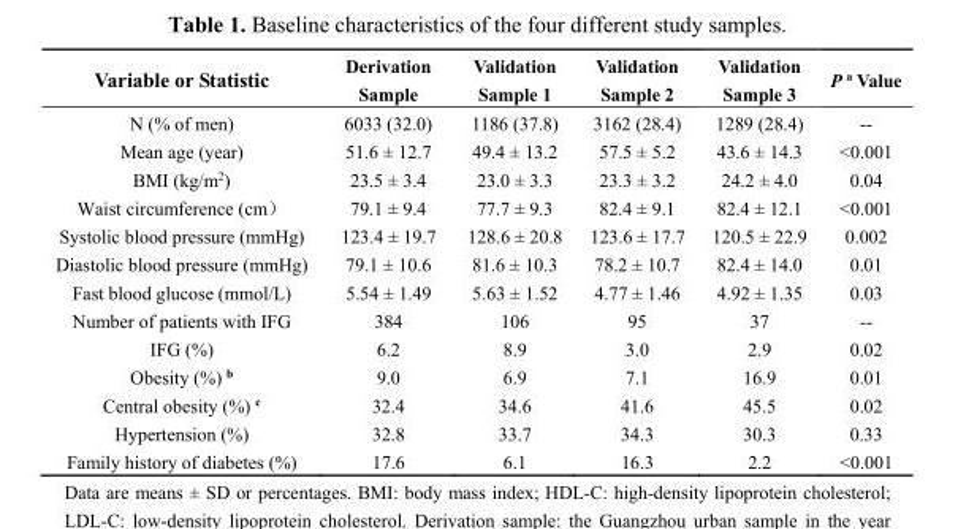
<table><thead><tr><td>Variable or Statistic</td><td>Derivation Sample</td><td>Validation Sample 1</td><td>Validation Sample 2</td><td>Validation Sample 3</td><td>P <sup>a</sup> Value</td></tr></thead><tbody><tr><td>N (% of men)</td><td>6033 (32.0)</td><td>1186 (37.8)</td><td>3162 (28.4)</td><td>1289 (28.4)</td><td>--</td></tr><tr><td>Mean age (year)</td><td>51.6 ± 12.7</td><td>49.4 ± 13.2</td><td>57.5 ± 5.2</td><td>43.6 ± 14.3</td><td>&lt;0.001</td></tr><tr><td>BMI (kg/m<sup>2</sup>)</td><td>23.5 ± 3.4</td><td>23.0 ± 3.3</td><td>23.3 ± 3.2</td><td>24.2 ± 4.0</td><td>0.04</td></tr><tr><td>Waist circumference (cm）</td><td>79.1 ± 9.4</td><td>77.7 ± 9.3</td><td>82.4 ± 9.1</td><td>82.4 ± 12.1</td><td>&lt;0.001</td></tr><tr><td>Systolic blood pressure (mmHg)</td><td>123.4 ± 19.7</td><td>128.6 ± 20.8</td><td>123.6 ± 17.7</td><td>120.5 ± 22.9</td><td>0.002</td></tr><tr><td>Diastolic blood pressure (mmHg)</td><td>79.1 ± 10.6</td><td>81.6 ± 10.3</td><td>78.2 ± 10.7</td><td>82.4 ± 14.0</td><td>0.01</td></tr><tr><td>Fast blood glucose (mmol/L)</td><td>5.54 ± 1.49</td><td>5.63 ± 1.52</td><td>4.77 ± 1.46</td><td>4.92 ± 1.35</td><td>0.03</td></tr><tr><td>Number of patients with IFG</td><td>384</td><td>106</td><td>95</td><td>37</td><td>--</td></tr><tr><td>IFG (%)</td><td>6.2</td><td>8.9</td><td>3.0</td><td>2.9</td><td>0.02</td></tr><tr><td>Obesity (%) <sup>b</sup></td><td>9.0</td><td>6.9</td><td>7.1</td><td>16.9</td><td>0.01</td></tr><tr><td>Central obesity (%) <sup>c</sup></td><td>32.4</td><td>34.6</td><td>41.6</td><td>45.5</td><td>0.02</td></tr><tr><td>Hypertension (%)</td><td>32.8</td><td>33.7</td><td>34.3</td><td>30.3</td><td>0.33</td></tr><tr><td>Family history of diabetes (%)</td><td>17.6</td><td>6.1</td><td>16.3</td><td>2.2</td><td>&lt;0.001</td></tr></tbody></table>